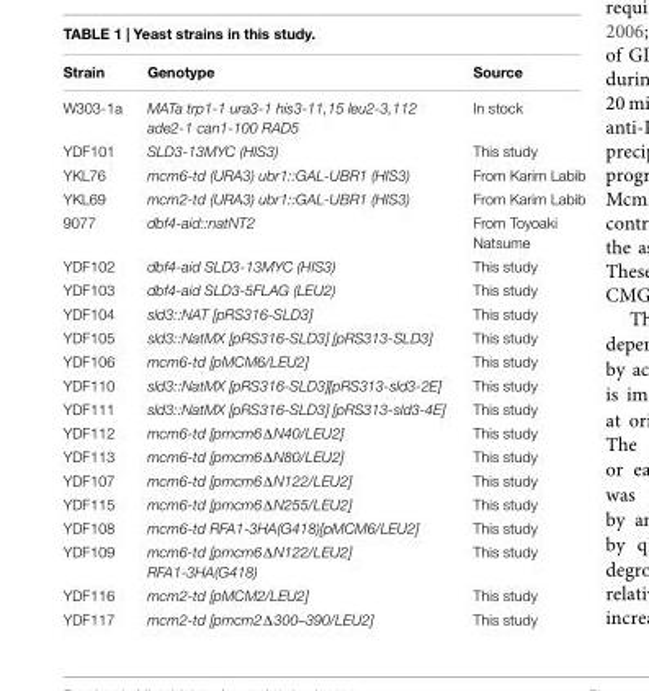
<table><thead><tr><td>Strain</td><td>Genotype</td><td>Source</td></tr></thead><tbody><tr><td>W303-1a</td><td>MATa trp1-1 ura3-1 his3-11,15 leu2-3,112 ade2-1 can1-100 RAD5</td><td>In stock</td></tr><tr><td>YDF101</td><td>SLD3-13MYC (HIS3)</td><td>This study</td></tr><tr><td>YKL76</td><td>mcm6-td (URA3) ubr1::GAL-UBR1 (HIS3)</td><td>From Karim Labib</td></tr><tr><td>YKL69</td><td>mcm2-td (URA3) ubr1::GAL-UBR1 (HIS3)</td><td>From Karim Labib</td></tr><tr><td>9077</td><td>dbf4-aid::natNT2</td><td>From Toyoaki Natsume</td></tr><tr><td>YDF102</td><td>dbf4-aid SLD3-13MYC (HIS3)</td><td>This study</td></tr><tr><td>YDF103</td><td>dbf4-aid SLD3-5FLAG (LEU2)</td><td>This study</td></tr><tr><td>YDF104</td><td>sld3::NAT [pRS316-SLD3]</td><td>This study</td></tr><tr><td>YDF105</td><td>sld3::NatMX [pRS316-SLD3] [pRS313-SLD3]</td><td>This study</td></tr><tr><td>YDF106</td><td>mcm6-td [pMCM6/LEU2]</td><td>This study</td></tr><tr><td>YDF110</td><td>sld3::NatMX [pRS316-SLD3][pRS313-sld3-2E]</td><td>This study</td></tr><tr><td>YDF111</td><td>sld3::NatMX [pRS316-SLD3] [pRS313-sld3-4E]</td><td>This study</td></tr><tr><td>YDF112</td><td>mcm6-td [pmcm6ΔN40/LEU2]</td><td>This study</td></tr><tr><td>YDF113</td><td>mcm6-td [pmcm6ΔN80/LEU2]</td><td>This study</td></tr><tr><td>YDF107</td><td>mcm6-td [pmcm6ΔN122/LEU2]</td><td>This study</td></tr><tr><td>YDF115</td><td>mcm6-td [pmcm6ΔN255/LEU2]</td><td>This study</td></tr><tr><td>YDF108</td><td>mcm6-td RFA1-3HA(G418)[pMCM6/LEU2]</td><td>This study</td></tr><tr><td>YDF109</td><td>mcm6-td [pmcm6ΔN122/LEU2] RFA1-3HA(G418)</td><td>This study</td></tr><tr><td>YDF116</td><td>mcm2-td [pMCM2/LEU2]</td><td>This study</td></tr><tr><td>YDF117</td><td>mcm2-td [pmcm2Δ300–390/LEU2]</td><td>This study</td></tr></tbody></table>